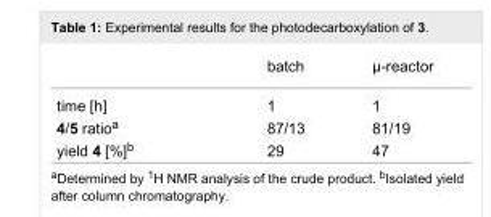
<table><thead><tr><td></td><td>batch</td><td>μ-reactor</td></tr></thead><tbody><tr><td>time [h]</td><td>1</td><td>1</td></tr><tr><td>4/5 ratio<sup>a</sup></td><td>87/13</td><td>81/19</td></tr><tr><td>yield 4 [%]<sup>b</sup></td><td>29</td><td>47</td></tr></tbody></table>